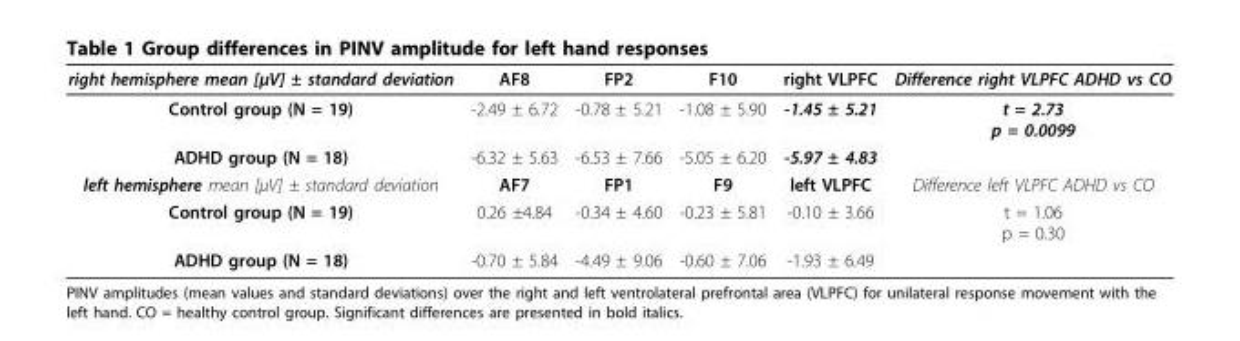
<table><thead><tr><td>right hemisphere mean [μV] ± standard deviation</td><td>AF8</td><td>FP2</td><td>F10</td><td>right VLPFC</td><td>Difference right VLPFC ADHD vs CO</td></tr></thead><tbody><tr><td>Control group (N = 19)</td><td>-2.49 ± 6.72</td><td>-0.78 ± 5.21</td><td>-1.08 ± 5.90</td><td>-1.45 ± 5.21</td><td>t = 2.73 p = 0.0099</td></tr><tr><td>ADHD group (N = 18)</td><td>-6.32 ± 5.63</td><td>-6.53 ± 7.66</td><td>-5.05 ± 6.20</td><td>-5.97 ± 4.83</td><td></td></tr><tr><td>left hemisphere mean [μV] ± standard deviation</td><td>AF7</td><td>FP1</td><td>F9</td><td>left VLPFC</td><td>Difference left VLPFC ADHD vs CO</td></tr><tr><td>Control group (N = 19)</td><td>0.26 ±4.84</td><td>-0.34 ± 4.60</td><td>-0.23 ± 5.81</td><td>-0.10 ± 3.66</td><td>t = 1.06 p = 0.30</td></tr><tr><td>ADHD group (N = 18)</td><td>-0.70 ± 5.84</td><td>-4.49 ± 9.06</td><td>-0.60 ± 7.06</td><td>-1.93 ± 6.49</td><td></td></tr></tbody></table>